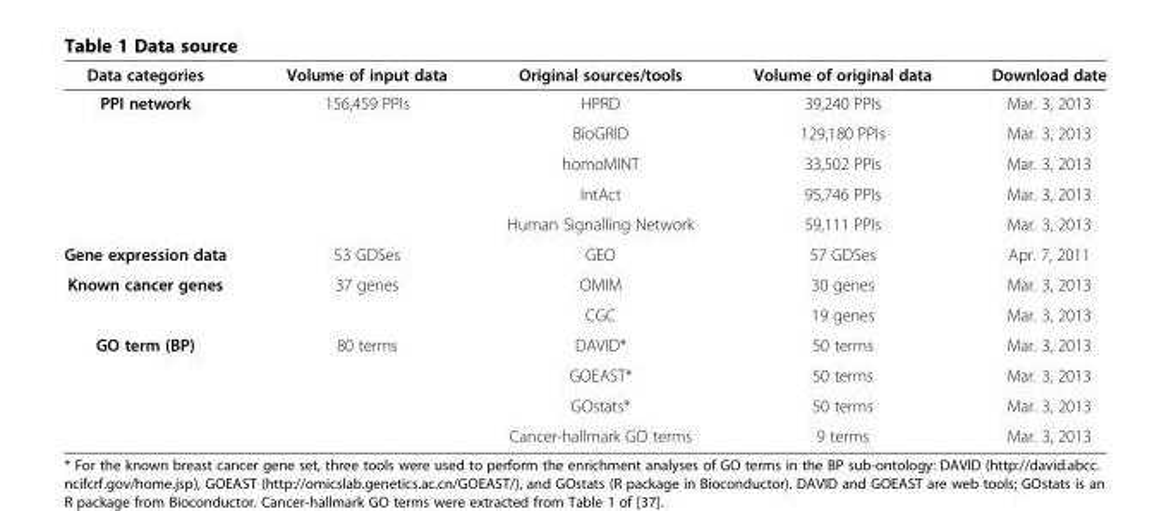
<table><thead><tr><td>Data categories</td><td>Volume of input data</td><td>Original sources/tools</td><td>Volume of original data</td><td>Download date</td></tr></thead><tbody><tr><td rowspan="5">PPI network</td><td>156,459 PPIs</td><td>HPRD</td><td>39,240 PPIs</td><td>Mar. 3, 2013</td></tr><tr><td></td><td>BioGRID</td><td>129,180 PPIs</td><td>Mar. 3, 2013</td></tr><tr><td></td><td>homoMINT</td><td>33,502 PPIs</td><td>Mar. 3, 2013</td></tr><tr><td></td><td>IntAct</td><td>95,746 PPIs</td><td>Mar. 3, 2013</td></tr><tr><td></td><td>Human Signalling Network</td><td>59,111 PPIs</td><td>Mar. 3, 2013</td></tr><tr><td>Gene expression data</td><td>53 GDSes</td><td>GEO</td><td>57 GDSes</td><td>Apr. 7, 2011</td></tr><tr><td rowspan="2">Known cancer genes</td><td>37 genes</td><td>OMIM</td><td>30 genes</td><td>Mar. 3, 2013</td></tr><tr><td></td><td>CGC</td><td>19 genes</td><td>Mar. 3, 2013</td></tr><tr><td rowspan="4">GO term (BP)</td><td>80 terms</td><td>DAVID*</td><td>50 terms</td><td>Mar. 3, 2013</td></tr><tr><td></td><td>GOEAST*</td><td>50 terms</td><td>Mar. 3, 2013</td></tr><tr><td></td><td>GOstats*</td><td>50 terms</td><td>Mar. 3, 2013</td></tr><tr><td></td><td>Cancer-hallmark GO terms</td><td>9 terms</td><td>Mar. 3, 2013</td></tr></tbody></table>